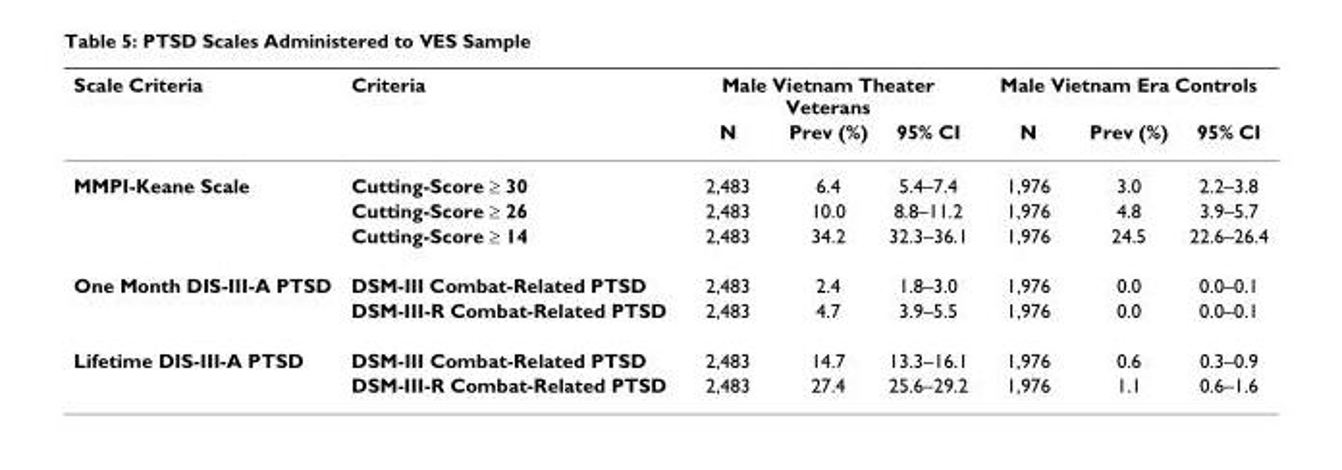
<table><thead><tr><td rowspan="2">Scale Criteria</td><td rowspan="2">Criteria</td><td colspan="3">Male Vietnam Theater Veterans</td><td colspan="3">Male Vietnam Era Controls</td></tr><tr><td>N</td><td>Prev (%)</td><td>95% CI</td><td>N</td><td>Prev (%)</td><td>95% CI</td></tr></thead><tbody><tr><td rowspan="3">MMPI-Keane Scale</td><td>Cutting-Score ≥ 30</td><td>2,483</td><td>6.4</td><td>5.4–7.4</td><td>1,976</td><td>3.0</td><td>2.2–3.8</td></tr><tr><td>Cutting-Score ≥ 26</td><td>2,483</td><td>10.0</td><td>8.8–11.2</td><td>1,976</td><td>4.8</td><td>3.9–5.7</td></tr><tr><td>Cutting-Score ≥ 14</td><td>2,483</td><td>34.2</td><td>32.3–36.1</td><td>1,976</td><td>24.5</td><td>22.6–26.4</td></tr><tr><td rowspan="2">One Month DIS-III-A PTSD</td><td>DSM-III Combat-Related PTSD</td><td>2,483</td><td>2.4</td><td>1.8–3.0</td><td>1,976</td><td>0.0</td><td>0.0–0.1</td></tr><tr><td>DSM-III-R Combat-Related PTSD</td><td>2,483</td><td>4.7</td><td>3.9–5.5</td><td>1,976</td><td>0.0</td><td>0.0–0.1</td></tr><tr><td rowspan="2">Lifetime DIS-III-A PTSD</td><td>DSM-III Combat-Related PTSD</td><td>2,483</td><td>14.7</td><td>13.3–16.1</td><td>1,976</td><td>0.6</td><td>0.3–0.9</td></tr><tr><td>DSM-III-R Combat-Related PTSD</td><td>2,483</td><td>27.4</td><td>25.6–29.2</td><td>1,976</td><td>1.1</td><td>0.6–1.6</td></tr></tbody></table>